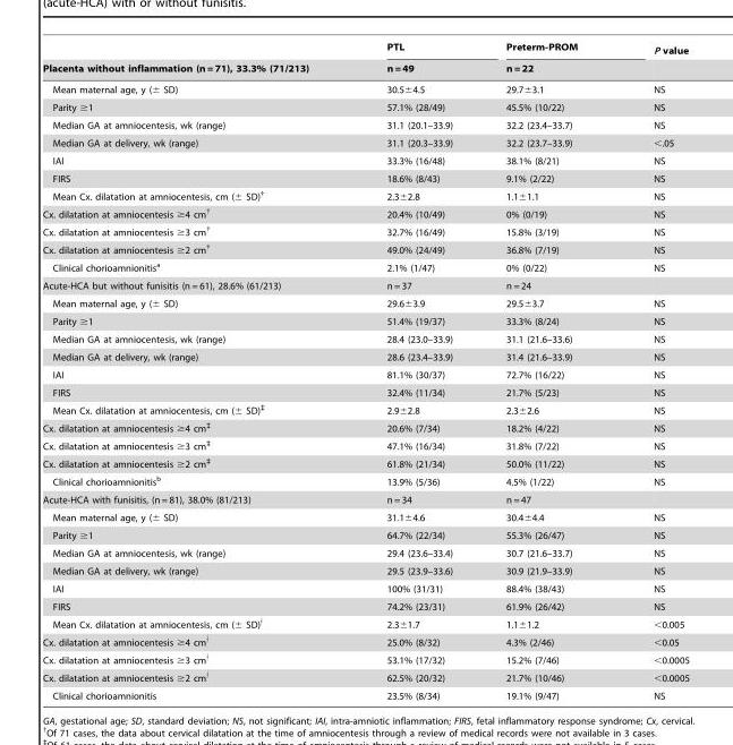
<table><thead><tr><td rowspan="2">Placenta without inflammation (n = 71), 33.3% (71/213)</td><td rowspan="2">PTL n = 49</td><td rowspan="2">Preterm-PROM n = 22</td><td rowspan="2">P value</td></tr><tr></tr></thead><tbody><tr><td>Mean maternal age, y (± SD)</td><td>30.5±4.5</td><td>29.7±3.1</td><td>NS</td></tr><tr><td>Parity ≥1</td><td>57.1% (28/49)</td><td>45.5% (10/22)</td><td>NS</td></tr><tr><td>Median GA at amniocentesis, wk (range)</td><td>31.1 (20.1–33.9)</td><td>32.2 (23.4–33.7)</td><td>NS</td></tr><tr><td>Median GA at delivery, wk (range)</td><td>31.1 (20.3–33.9)</td><td>32.2 (23.7–33.9)</td><td>&lt;.05</td></tr><tr><td>IAI</td><td>33.3% (16/48)</td><td>38.1% (8/21)</td><td>NS</td></tr><tr><td>FIRS</td><td>18.6% (8/43)</td><td>9.1% (2/22)</td><td>NS</td></tr><tr><td>Mean Cx. dilatation at amniocentesis, cm (± SD)†</td><td>2.3±2.8</td><td>1.1±1.1</td><td>NS</td></tr><tr><td>Cx. dilatation at amniocentesis ≥4 cm†</td><td>20.4% (10/49)</td><td>0% (0/19)</td><td>NS</td></tr><tr><td>Cx. dilatation at amniocentesis ≥3 cm†</td><td>32.7% (16/49)</td><td>15.8% (3/19)</td><td>NS</td></tr><tr><td>Cx. dilatation at amniocentesis ≥2 cm†</td><td>49.0% (24/49)</td><td>36.8% (7/19)</td><td>NS</td></tr><tr><td>Clinical chorioamnionitis<sup>a</sup></td><td>2.1% (1/47)</td><td>0% (0/22)</td><td>NS</td></tr><tr><td>Acute-HCA but without funisitis (n = 61), 28.6% (61/213)</td><td>n = 37</td><td>n = 24</td><td></td></tr><tr><td>Mean maternal age, y (± SD)</td><td>29.6±3.9</td><td>29.5±3.7</td><td>NS</td></tr><tr><td>Parity ≥1</td><td>51.4% (19/37)</td><td>33.3% (8/24)</td><td>NS</td></tr><tr><td>Median GA at amniocentesis, wk (range)</td><td>28.4 (23.0–33.9)</td><td>31.1 (21.6–33.6)</td><td>NS</td></tr><tr><td>Median GA at delivery, wk (range)</td><td>28.6 (23.4–33.9)</td><td>31.4 (21.6–33.9)</td><td>NS</td></tr><tr><td>IAI</td><td>81.1% (30/37)</td><td>72.7% (16/22)</td><td>NS</td></tr><tr><td>FIRS</td><td>32.4% (11/34)</td><td>21.7% (5/23)</td><td>NS</td></tr><tr><td>Mean Cx. dilatation at amniocentesis, cm (± SD)‡</td><td>2.9±2.8</td><td>2.3±2.6</td><td>NS</td></tr><tr><td>Cx. dilatation at amniocentesis ≥4 cm‡</td><td>20.6% (7/34)</td><td>18.2% (4/22)</td><td>NS</td></tr><tr><td>Cx. dilatation at amniocentesis ≥3 cm‡</td><td>47.1% (16/34)</td><td>31.8% (7/22)</td><td>NS</td></tr><tr><td>Cx. dilatation at amniocentesis ≥2 cm‡</td><td>61.8% (21/34)</td><td>50.0% (11/22)</td><td>NS</td></tr><tr><td>Clinical chorioamnionitis<sup>b</sup></td><td>13.9% (5/36)</td><td>4.5% (1/22)</td><td>NS</td></tr><tr><td>Acute-HCA with funisitis, (n = 81), 38.0% (81/213)</td><td>n = 34</td><td>n = 47</td><td></td></tr><tr><td>Mean maternal age, y (± SD)</td><td>31.1±4.6</td><td>30.4±4.4</td><td>NS</td></tr><tr><td>Parity ≥1</td><td>64.7% (22/34)</td><td>55.3% (26/47)</td><td>NS</td></tr><tr><td>Median GA at amniocentesis, wk (range)</td><td>29.4 (23.6–33.4)</td><td>30.7 (21.6–33.7)</td><td>NS</td></tr><tr><td>Median GA at delivery, wk (range)</td><td>29.5 (23.9–33.6)</td><td>30.9 (21.9–33.9)</td><td>NS</td></tr><tr><td>IAI</td><td>100% (31/31)</td><td>88.4% (38/43)</td><td>NS</td></tr><tr><td>FIRS</td><td>74.2% (23/31)</td><td>61.9% (26/42)</td><td>NS</td></tr><tr><td>Mean Cx. dilatation at amniocentesis, cm (± SD)∮</td><td>2.3±1.7</td><td>1.1±1.2</td><td>&lt;0.005</td></tr><tr><td>Cx. dilatation at amniocentesis ≥4 cm∮</td><td>25.0% (8/32)</td><td>4.3% (2/46)</td><td>&lt;0.05</td></tr><tr><td>Cx. dilatation at amniocentesis ≥3 cm∮</td><td>53.1% (17/32)</td><td>15.2% (7/46)</td><td>&lt;0.0005</td></tr><tr><td>Cx. dilatation at amniocentesis ≥2 cm∮</td><td>62.5% (20/32)</td><td>21.7% (10/46)</td><td>&lt;0.0005</td></tr><tr><td>Clinical chorioamnionitis</td><td>23.5% (8/34)</td><td>19.1% (9/47)</td><td>NS</td></tr></tbody></table>